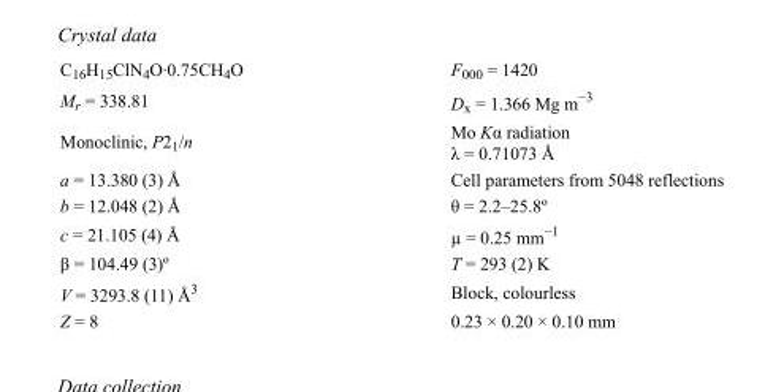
<table><tbody><tr><td>C<sub>16</sub>H<sub>15</sub>ClN<sub>4</sub>O·0.75CH<sub>4</sub>O</td><td>F000 = 1420</td></tr><tr><td>M<sub>r</sub> = 338.81</td><td>D<sub>x</sub> = 1.366 Mg m<sup>−3</sup></td></tr><tr><td>Monoclinic, P2<sub>1</sub>/n</td><td>Mo Kα radiation λ = 0.71073 Å</td></tr><tr><td>a = 13.380 (3) Å</td><td>Cell parameters from 5048 reflections</td></tr><tr><td>b = 12.048 (2) Å</td><td>θ = 2.2–25.8º</td></tr><tr><td>c = 21.105 (4) Å</td><td>µ = 0.25 mm<sup>−1</sup></td></tr><tr><td>β = 104.49 (3)º</td><td>T = 293 (2) K</td></tr><tr><td>V = 3293.8 (11) Å<sup>3</sup></td><td>Block, colourless</td></tr><tr><td>Z = 8</td><td>0.23 × 0.20 × 0.10 mm</td></tr></tbody></table>